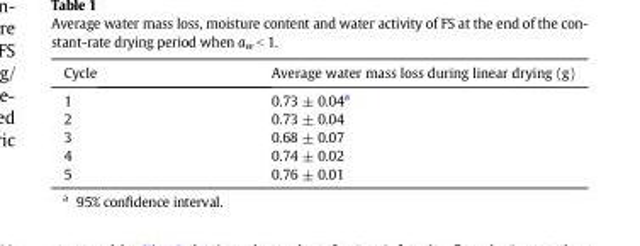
<table><thead><tr><td>Cycle</td><td>Average water mass loss during linear drying (g)</td></tr></thead><tbody><tr><td>1</td><td>0.73 ± 0.04<sup>a</sup></td></tr><tr><td>2</td><td>0.73 ± 0.04</td></tr><tr><td>3</td><td>0.68 ± 0.07</td></tr><tr><td>4</td><td>0.74 ± 0.02</td></tr><tr><td>5</td><td>0.76 ± 0.01</td></tr></tbody></table>